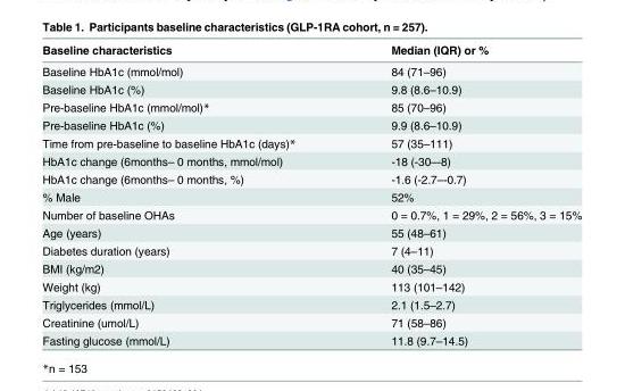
<table><thead><tr><td>Baseline characteristics</td><td>Median (IQR) or %</td></tr></thead><tbody><tr><td>Baseline HbA1c (mmol/mol)</td><td>84 (71–96)</td></tr><tr><td>Baseline HbA1c (%)</td><td>9.8 (8.6–10.9)</td></tr><tr><td>Pre-baseline HbA1c (mmol/mol)*</td><td>85 (70–96)</td></tr><tr><td>Pre-baseline HbA1c (%)</td><td>9.9 (8.6–10.9)</td></tr><tr><td>Time from pre-baseline to baseline HbA1c (days)*</td><td>57 (35–111)</td></tr><tr><td>HbA1c change (6months– 0 months, mmol/mol)</td><td>-18 (-30–-8)</td></tr><tr><td>HbA1c change (6months– 0 months, %)</td><td>-1.6 (-2.7–-0.7)</td></tr><tr><td>% Male</td><td>52%</td></tr><tr><td>Number of baseline OHAs</td><td>0 = 0.7%, 1 = 29%, 2 = 56%, 3 = 15%</td></tr><tr><td>Age (years)</td><td>55 (48–61)</td></tr><tr><td>Diabetes duration (years)</td><td>7 (4–11)</td></tr><tr><td>BMI (kg/m2)</td><td>40 (35–45)</td></tr><tr><td>Weight (kg)</td><td>113 (101–142)</td></tr><tr><td>Triglycerides (mmol/L)</td><td>2.1 (1.5–2.7)</td></tr><tr><td>Creatinine (umol/L)</td><td>71 (58–86)</td></tr><tr><td>Fasting glucose (mmol/L)</td><td>11.8 (9.7–14.5)</td></tr></tbody></table>